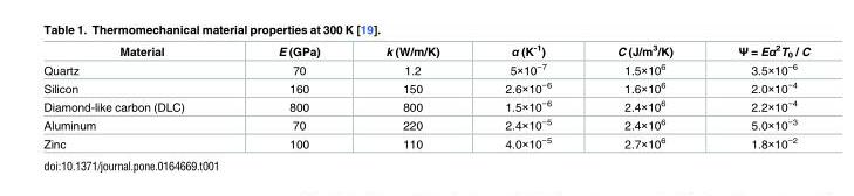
<table><thead><tr><td>Material</td><td>E (GPa)</td><td>k (W/m/K)</td><td>α (K<sup>-1</sup>)</td><td>C (J/m<sup>3</sup>/K)</td><td>Ψ = Eα<sup>2</sup>T<sub>0</sub> / C</td></tr></thead><tbody><tr><td>Quartz</td><td>70</td><td>1.2</td><td>5×10<sup>−7</sup></td><td>1.5×10<sup>6</sup></td><td>3.5×10<sup>−6</sup></td></tr><tr><td>Silicon</td><td>160</td><td>150</td><td>2.6×10<sup>−6</sup></td><td>1.6×10<sup>6</sup></td><td>2.0×10<sup>−4</sup></td></tr><tr><td>Diamond-like carbon (DLC)</td><td>800</td><td>800</td><td>1.5×10<sup>−6</sup></td><td>2.4×10<sup>6</sup></td><td>2.2×10<sup>−4</sup></td></tr><tr><td>Aluminum</td><td>70</td><td>220</td><td>2.4×10<sup>−5</sup></td><td>2.4×10<sup>6</sup></td><td>5.0×10<sup>−3</sup></td></tr><tr><td>Zinc</td><td>100</td><td>110</td><td>4.0×10<sup>−5</sup></td><td>2.7×10<sup>6</sup></td><td>1.8×10<sup>−2</sup></td></tr></tbody></table>